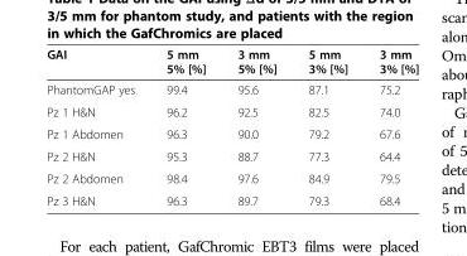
<table><thead><tr><td>GAI</td><td>5 mm 5% [%]</td><td>3 mm 5% [%]</td><td>5 mm 3% [%]</td><td>3 mm 3% [%]</td></tr></thead><tbody><tr><td>PhantomGAP yes</td><td>99.4</td><td>95.6</td><td>87.1</td><td>75.2</td></tr><tr><td>Pz 1 H&amp;N</td><td>96.2</td><td>92.5</td><td>82.5</td><td>74.0</td></tr><tr><td>Pz 1 Abdomen</td><td>96.3</td><td>90.0</td><td>79.2</td><td>67.6</td></tr><tr><td>Pz 2 H&amp;N</td><td>95.3</td><td>88.7</td><td>77.3</td><td>64.4</td></tr><tr><td>Pz 2 Abdomen</td><td>98.4</td><td>97.6</td><td>84.9</td><td>79.5</td></tr><tr><td>Pz 3 H&amp;N</td><td>96.3</td><td>89.7</td><td>79.3</td><td>68.4</td></tr></tbody></table>